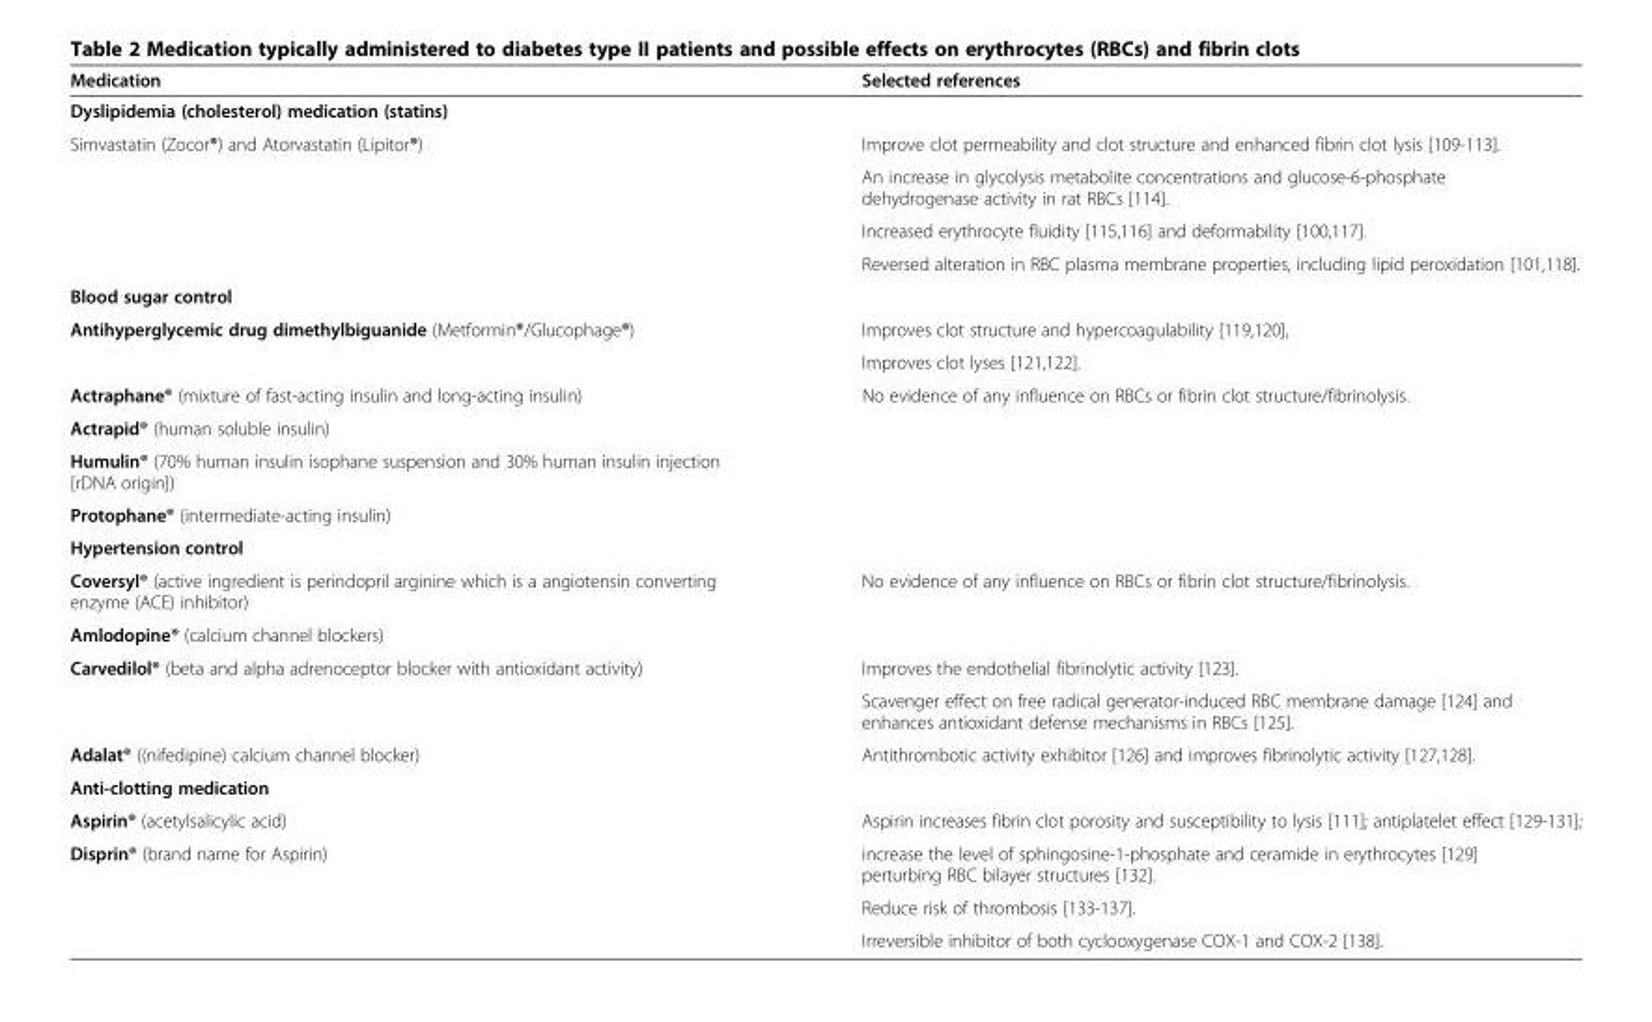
<table><thead><tr><td>Medication</td><td>Selected references</td></tr></thead><tbody><tr><td colspan="2">Dyslipidemia (cholesterol) medication (statins)</td></tr><tr><td rowspan="4">Simvastatin (Zocor®) and Atorvastatin (Lipitor®)</td><td>Improve clot permeability and clot structure and enhanced fibrin clot lysis [109-113].</td></tr><tr><td>An increase in glycolysis metabolite concentrations and glucose-6-phosphate dehydrogenase activity in rat RBCs [114].</td></tr><tr><td>Increased erythrocyte fluidity [115,116] and deformability [100,117].</td></tr><tr><td>Reversed alteration in RBC plasma membrane properties, including lipid peroxidation [101,118].</td></tr><tr><td colspan="2">Blood sugar control</td></tr><tr><td rowspan="2">Antihyperglycemic drug dimethylbiguanide (Metformin®/Glucophage®)</td><td>Improves clot structure and hypercoagulability [119,120],</td></tr><tr><td>Improves clot lyses [121,122].</td></tr><tr><td>Actraphane® (mixture of fast-acting insulin and long-acting insulin)</td><td rowspan="4">No evidence of any influence on RBCs or fibrin clot structure/fibrinolysis.</td></tr><tr><td>Actrapid® (human soluble insulin)</td></tr><tr><td>Humulin® (70% human insulin isophane suspension and 30% human insulin injection [rDNA origin])</td></tr><tr><td>Protophane® (intermediate-acting insulin)</td></tr><tr><td colspan="2">Hypertension control</td></tr><tr><td>Coversyl® (active ingredient is perindopril arginine which is a angiotensin converting enzyme (ACE) inhibitor)</td><td rowspan="2">No evidence of any influence on RBCs or fibrin clot structure/fibrinolysis.</td></tr><tr><td>Amlodopine® (calcium channel blockers)</td></tr><tr><td rowspan="2">Carvedilol® (beta and alpha adrenoceptor blocker with antioxidant activity)</td><td>Improves the endothelial fibrinolytic activity [123].</td></tr><tr><td>Scavenger effect on free radical generator-induced RBC membrane damage [124] and enhances antioxidant defense mechanisms in RBCs [125].</td></tr><tr><td>Adalat® ((nifedipine) calcium channel blocker)</td><td>Antithrombotic activity exhibitor [126] and improves fibrinolytic activity [127,128].</td></tr><tr><td colspan="2">Anti-clotting medication</td></tr><tr><td>Aspirin® (acetylsalicylic acid)</td><td>Aspirin increases fibrin clot porosity and susceptibility to lysis [111]; antiplatelet effect [129-131];</td></tr><tr><td rowspan="3">Disprin® (brand name for Aspirin)</td><td>increase the level of sphingosine-1-phosphate and ceramide in erythrocytes [129] perturbing RBC bilayer structures [132].</td></tr><tr><td>Reduce risk of thrombosis [133-137].</td></tr><tr><td>Irreversible inhibitor of both cyclooxygenase COX-1 and COX-2 [138].</td></tr></tbody></table>